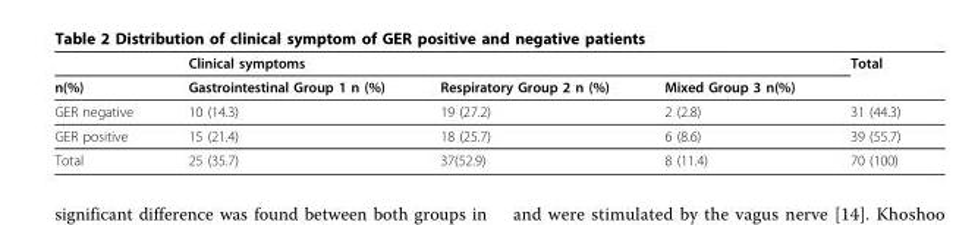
<table><thead><tr><td rowspan="2">n(%)</td><td rowspan="2">Clinical symptoms Gastrointestinal Group 1 n (%)</td><td rowspan="2">Respiratory Group 2 n (%)</td><td rowspan="2">Mixed Group 3 n(%)</td><td rowspan="2">Total</td></tr><tr></tr></thead><tbody><tr><td>GER negative</td><td>10 (14.3)</td><td>19 (27.2)</td><td>2 (2.8)</td><td>31 (44.3)</td></tr><tr><td>GER positive</td><td>15 (21.4)</td><td>18 (25.7)</td><td>6 (8.6)</td><td>39 (55.7)</td></tr><tr><td>Total</td><td>25 (35.7)</td><td>37(52.9)</td><td>8 (11.4)</td><td>70 (100)</td></tr></tbody></table>